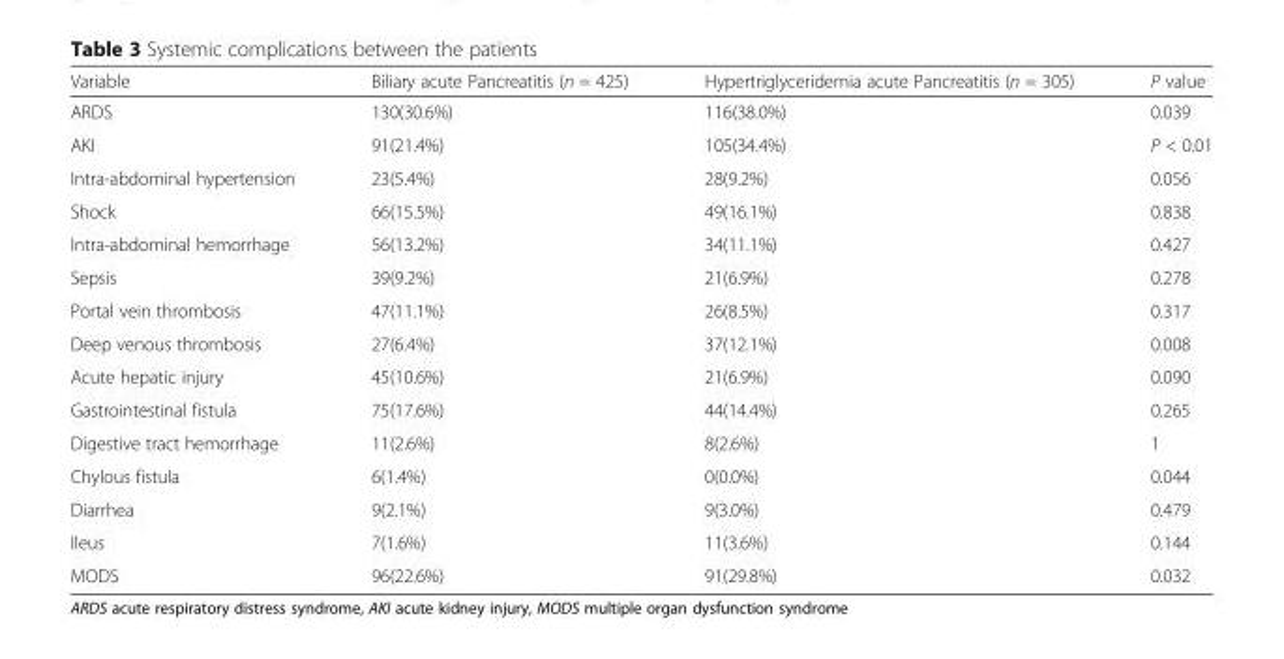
<table><thead><tr><td>Variable</td><td>Biliary acute Pancreatitis (n = 425)</td><td>Hypertriglyceridemia acute Pancreatitis (n = 305)</td><td>P value</td></tr></thead><tbody><tr><td>ARDS</td><td>130(30.6%)</td><td>116(38.0%)</td><td>0.039</td></tr><tr><td>AKI</td><td>91(21.4%)</td><td>105(34.4%)</td><td>P &lt; 0.01</td></tr><tr><td>Intra-abdominal hypertension</td><td>23(5.4%)</td><td>28(9.2%)</td><td>0.056</td></tr><tr><td>Shock</td><td>66(15.5%)</td><td>49(16.1%)</td><td>0.838</td></tr><tr><td>Intra-abdominal hemorrhage</td><td>56(13.2%)</td><td>34(11.1%)</td><td>0.427</td></tr><tr><td>Sepsis</td><td>39(9.2%)</td><td>21(6.9%)</td><td>0.278</td></tr><tr><td>Portal vein thrombosis</td><td>47(11.1%)</td><td>26(8.5%)</td><td>0.317</td></tr><tr><td>Deep venous thrombosis</td><td>27(6.4%)</td><td>37(12.1%)</td><td>0.008</td></tr><tr><td>Acute hepatic injury</td><td>45(10.6%)</td><td>21(6.9%)</td><td>0.090</td></tr><tr><td>Gastrointestinal fistula</td><td>75(17.6%)</td><td>44(14.4%)</td><td>0.265</td></tr><tr><td>Digestive tract hemorrhage</td><td>11(2.6%)</td><td>8(2.6%)</td><td>1</td></tr><tr><td>Chylous fistula</td><td>6(1.4%)</td><td>0(0.0%)</td><td>0.044</td></tr><tr><td>Diarrhea</td><td>9(2.1%)</td><td>9(3.0%)</td><td>0.479</td></tr><tr><td>Ileus</td><td>7(1.6%)</td><td>11(3.6%)</td><td>0.144</td></tr><tr><td>MODS</td><td>96(22.6%)</td><td>91(29.8%)</td><td>0.032</td></tr></tbody></table>